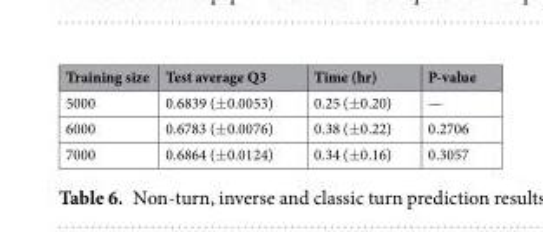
<table><thead><tr><td>Training size</td><td>Test average Q3</td><td>Time (hr)</td><td>P-value</td></tr></thead><tbody><tr><td>5000</td><td>0.6839 (±0.0053)</td><td>0.25 (±0.20)</td><td>—</td></tr><tr><td>6000</td><td>0.6783 (±0.0076)</td><td>0.38 (±0.22)</td><td>0.2706</td></tr><tr><td>7000</td><td>0.6864 (±0.0124)</td><td>0.34 (±0.16)</td><td>0.3057</td></tr></tbody></table>